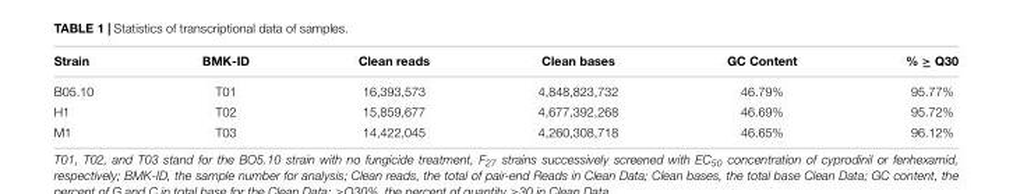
<table><thead><tr><td>Strain</td><td>BMK-ID</td><td>Clean reads</td><td>Clean bases</td><td>GC Content</td><td>% ≥ Q30</td></tr></thead><tbody><tr><td>B05.10</td><td>T01</td><td>16,393,573</td><td>4,848,823,732</td><td>46.79%</td><td>95.77%</td></tr><tr><td>H1</td><td>T02</td><td>15,859,677</td><td>4,677,392,268</td><td>46.69%</td><td>95.72%</td></tr><tr><td>M1</td><td>T03</td><td>14,422,045</td><td>4,260,308,718</td><td>46.65%</td><td>96.12%</td></tr></tbody></table>